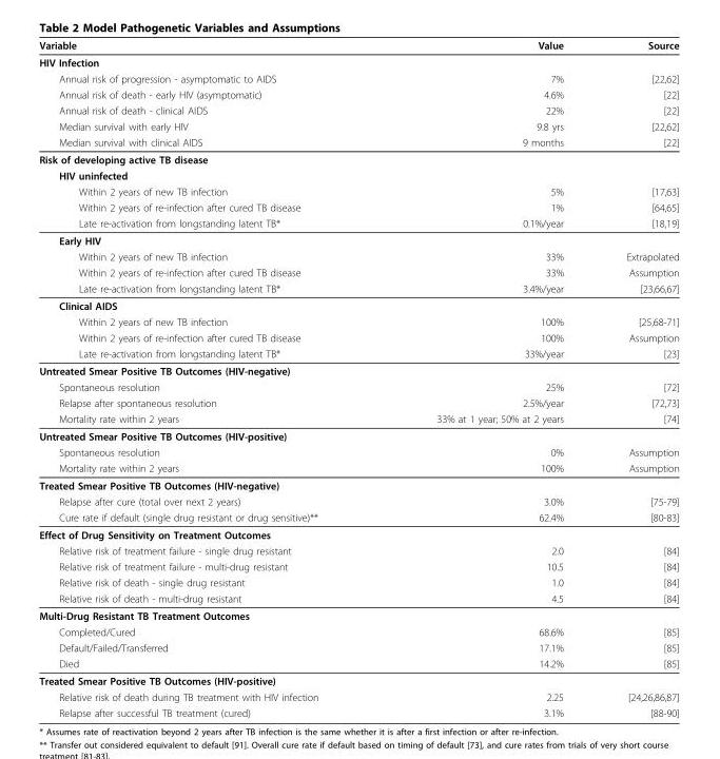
<table><thead><tr><td>Variable</td><td>Value</td><td>Source</td></tr></thead><tbody><tr><td colspan="3">HIV Infection</td></tr><tr><td>Annual risk of progression - asymptomatic to AIDS</td><td>7%</td><td>[22,62]</td></tr><tr><td>Annual risk of death - early HIV (asymptomatic)</td><td>4.6%</td><td>[22]</td></tr><tr><td>Annual risk of death - clinical AIDS</td><td>22%</td><td>[22]</td></tr><tr><td>Median survival with early HIV</td><td>9.8 yrs</td><td>[22,62]</td></tr><tr><td>Median survival with clinical AIDS</td><td>9 months</td><td>[22]</td></tr><tr><td colspan="3">Risk of developing active TB disease</td></tr><tr><td colspan="3">HIV uninfected</td></tr><tr><td>Within 2 years of new TB infection</td><td>5%</td><td>[17,63]</td></tr><tr><td>Within 2 years of re-infection after cured TB disease</td><td>1%</td><td>[64,65]</td></tr><tr><td>Late re-activation from longstanding latent TB*</td><td>0.1%/year</td><td>[18,19]</td></tr><tr><td colspan="3">Early HIV</td></tr><tr><td>Within 2 years of new TB infection</td><td>33%</td><td>Extrapolated</td></tr><tr><td>Within 2 years of re-infection after cured TB disease</td><td>33%</td><td>Assumption</td></tr><tr><td>Late re-activation from longstanding latent TB*</td><td>3.4%/year</td><td>[23,66,67]</td></tr><tr><td colspan="3">Clinical AIDS</td></tr><tr><td>Within 2 years of new TB infection</td><td>100%</td><td>[25,68-71]</td></tr><tr><td>Within 2 years of re-infection after cured TB disease</td><td>100%</td><td>Assumption</td></tr><tr><td>Late re-activation from longstanding latent TB*</td><td>33%/year</td><td>[23]</td></tr><tr><td colspan="3">Untreated Smear Positive TB Outcomes (HIV-negative)</td></tr><tr><td>Spontaneous resolution</td><td>25%</td><td>[72]</td></tr><tr><td>Relapse after spontaneous resolution</td><td>2.5%/year</td><td>[72,73]</td></tr><tr><td>Mortality rate within 2 years</td><td>33% at 1 year; 50% at 2 years</td><td>[74]</td></tr><tr><td colspan="3">Untreated Smear Positive TB Outcomes (HIV-positive)</td></tr><tr><td>Spontaneous resolution</td><td>0%</td><td>Assumption</td></tr><tr><td>Mortality rate within 2 years</td><td>100%</td><td>Assumption</td></tr><tr><td colspan="3">Treated Smear Positive TB Outcomes (HIV-negative)</td></tr><tr><td>Relapse after cure (total over next 2 years)</td><td>3.0%</td><td>[75-79]</td></tr><tr><td>Cure rate if default (single drug resistant or drug sensitive)**</td><td>62.4%</td><td>[80-83]</td></tr><tr><td colspan="3">Effect of Drug Sensitivity on Treatment Outcomes</td></tr><tr><td>Relative risk of treatment failure - single drug resistant</td><td>2.0</td><td>[84]</td></tr><tr><td>Relative risk of treatment failure - multi-drug resistant</td><td>10.5</td><td>[84]</td></tr><tr><td>Relative risk of death - single drug resistant</td><td>1.0</td><td>[84]</td></tr><tr><td>Relative risk of death - multi-drug resistant</td><td>4.5</td><td>[84]</td></tr><tr><td colspan="3">Multi-Drug Resistant TB Treatment Outcomes</td></tr><tr><td>Completed/Cured</td><td>68.6%</td><td>[85]</td></tr><tr><td>Default/Failed/Transferred</td><td>17.1%</td><td>[85]</td></tr><tr><td>Died</td><td>14.2%</td><td>[85]</td></tr><tr><td colspan="3">Treated Smear Positive TB Outcomes (HIV-positive)</td></tr><tr><td>Relative risk of death during TB treatment with HIV infection</td><td>2.25</td><td>[24,26,86,87]</td></tr><tr><td>Relapse after successful TB treatment (cured)</td><td>3.1%</td><td>[88-90]</td></tr></tbody></table>